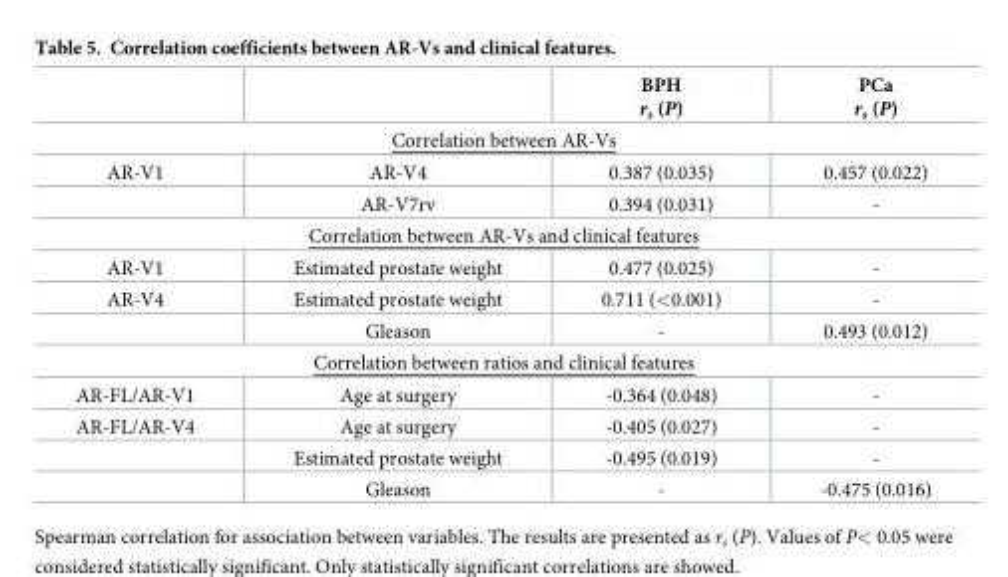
<table><thead><tr><td></td><td></td><td>BPH r<sub>s</sub> (P)</td><td>PCa r<sub>s</sub> (P)</td></tr></thead><tbody><tr><td colspan="4">Correlation between AR-Vs</td></tr><tr><td rowspan="2">AR-V1</td><td>AR-V4</td><td>0.387 (0.035)</td><td>0.457 (0.022)</td></tr><tr><td>AR-V7rv</td><td>0.394 (0.031)</td><td>-</td></tr><tr><td colspan="4">Correlation between AR-Vs and clinical features</td></tr><tr><td>AR-V1</td><td>Estimated prostate weight</td><td>0.477 (0.025)</td><td>-</td></tr><tr><td rowspan="2">AR-V4</td><td>Estimated prostate weight</td><td>0.711 (&lt;0.001)</td><td>-</td></tr><tr><td>Gleason</td><td>-</td><td>0.493 (0.012)</td></tr><tr><td colspan="4">Correlation between ratios and clinical features</td></tr><tr><td>AR-FL/AR-V1</td><td>Age at surgery</td><td>-0.364 (0.048)</td><td>-</td></tr><tr><td rowspan="3">AR-FL/AR-V4</td><td>Age at surgery</td><td>-0.405 (0.027)</td><td>-</td></tr><tr><td>Estimated prostate weight</td><td>-0.495 (0.019)</td><td>-</td></tr><tr><td>Gleason</td><td>-</td><td>-0.475 (0.016)</td></tr></tbody></table>